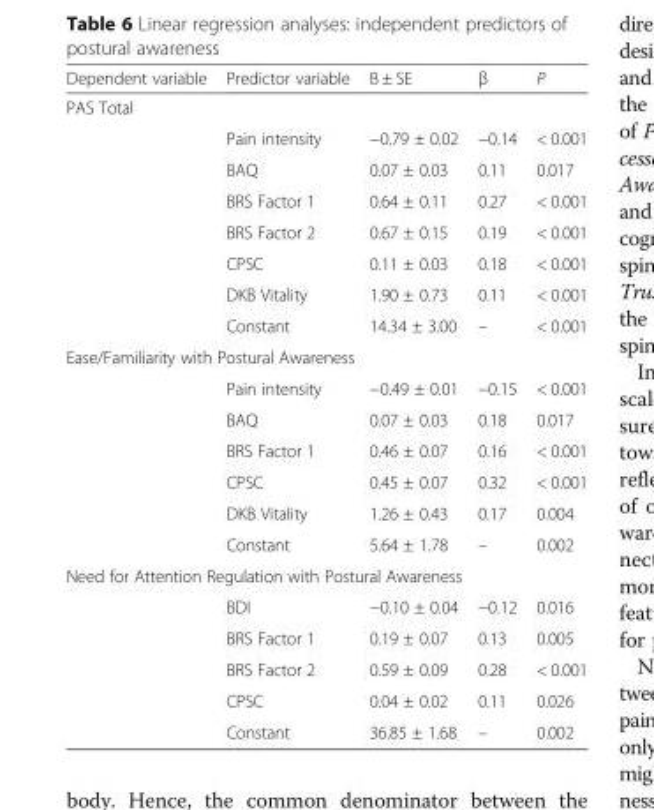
<table><thead><tr><td>Dependent variable</td><td>Predictor variable</td><td>B ± SE</td><td>β</td><td>P</td></tr></thead><tbody><tr><td colspan="5">PAS Total</td></tr><tr><td></td><td>Pain intensity</td><td>−0.79 ± 0.02</td><td>−0.14</td><td>&lt; 0.001</td></tr><tr><td></td><td>BAQ</td><td>0.07 ± 0.03</td><td>0.11</td><td>0.017</td></tr><tr><td></td><td>BRS Factor 1</td><td>0.64 ± 0.11</td><td>0.27</td><td>&lt; 0.001</td></tr><tr><td></td><td>BRS Factor 2</td><td>0.67 ± 0.15</td><td>0.19</td><td>&lt; 0.001</td></tr><tr><td></td><td>CPSC</td><td>0.11 ± 0.03</td><td>0.18</td><td>&lt; 0.001</td></tr><tr><td></td><td>DKB Vitality</td><td>1.90 ± 0.73</td><td>0.11</td><td>&lt; 0.001</td></tr><tr><td></td><td>Constant</td><td>14.34 ± 3.00</td><td>–</td><td>&lt; 0.001</td></tr><tr><td colspan="5">Ease/Familiarity with Postural Awareness</td></tr><tr><td></td><td>Pain intensity</td><td>−0.49 ± 0.01</td><td>−0.15</td><td>&lt; 0.001</td></tr><tr><td></td><td>BAQ</td><td>0.07 ± 0.03</td><td>0.18</td><td>0.017</td></tr><tr><td></td><td>BRS Factor 1</td><td>0.46 ± 0.07</td><td>0.16</td><td>&lt; 0.001</td></tr><tr><td></td><td>CPSC</td><td>0.45 ± 0.07</td><td>0.32</td><td>&lt; 0.001</td></tr><tr><td></td><td>DKB Vitality</td><td>1.26 ± 0.43</td><td>0.17</td><td>0.004</td></tr><tr><td></td><td>Constant</td><td>5.64 ± 1.78</td><td>–</td><td>0.002</td></tr><tr><td colspan="5">Need for Attention Regulation with Postural Awareness</td></tr><tr><td></td><td>BDI</td><td>−0.10 ± 0.04</td><td>−0.12</td><td>0.016</td></tr><tr><td></td><td>BRS Factor 1</td><td>0.19 ± 0.07</td><td>0.13</td><td>0.005</td></tr><tr><td></td><td>BRS Factor 2</td><td>0.59 ± 0.09</td><td>0.28</td><td>&lt; 0.001</td></tr><tr><td></td><td>CPSC</td><td>0.04 ± 0.02</td><td>0.11</td><td>0.026</td></tr><tr><td></td><td>Constant</td><td>36.85 ± 1.68</td><td>–</td><td>0.002</td></tr></tbody></table>